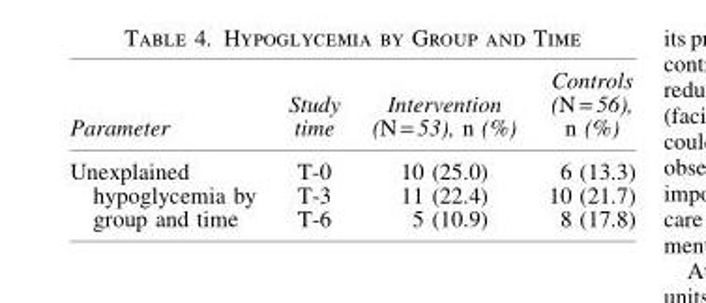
<table><thead><tr><td>Parameter</td><td>Study time</td><td>Intervention (N = 53), n (%)</td><td>Controls (N = 56), n (%)</td></tr></thead><tbody><tr><td rowspan="3">Unexplained hypoglycemia by group and time</td><td>T-0</td><td>10 (25.0)</td><td>6 (13.3)</td></tr><tr><td>T-3</td><td>11 (22.4)</td><td>10 (21.7)</td></tr><tr><td>T-6</td><td>5 (10.9)</td><td>8 (17.8)</td></tr></tbody></table>